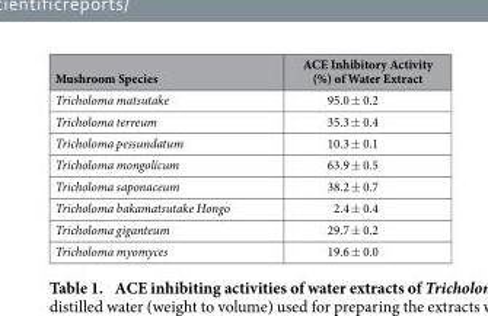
<table><thead><tr><td>Mushroom Species</td><td>ACE Inhibitory Activity (%) of Water Extract</td></tr></thead><tbody><tr><td>Tricholoma matsutake</td><td>95.0 ± 0.2</td></tr><tr><td>Tricholoma terreum</td><td>35.3 ± 0.4</td></tr><tr><td>Tricholoma pessundatum</td><td>10.3 ± 0.1</td></tr><tr><td>Tricholoma mongolicum</td><td>63.9 ± 0.5</td></tr><tr><td>Tricholoma saponaceum</td><td>38.2 ± 0.7</td></tr><tr><td>Tricholoma bakamatsutake Hongo</td><td>2.4 ± 0.4</td></tr><tr><td>Tricholoma giganteum</td><td>29.7 ± 0.2</td></tr><tr><td>Tricholoma myomyces</td><td>19.6 ± 0.0</td></tr></tbody></table>